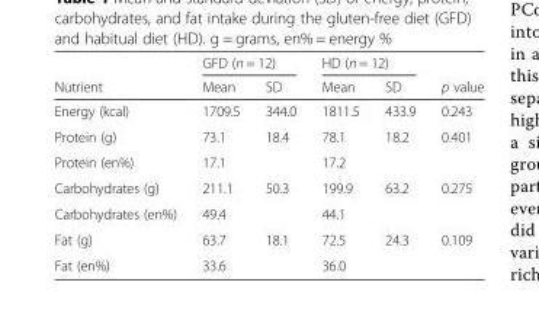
<table><thead><tr><td rowspan="2">Nutrient</td><td colspan="2">GFD (n = 12)</td><td colspan="2">HD (n = 12)</td><td rowspan="2">p value</td></tr><tr><td>Mean</td><td>SD</td><td>Mean</td><td>SD</td></tr></thead><tbody><tr><td>Energy (kcal)</td><td>1709.5</td><td>344.0</td><td>1811.5</td><td>433.9</td><td>0.243</td></tr><tr><td>Protein (g)</td><td>73.1</td><td>18.4</td><td>78.1</td><td>18.2</td><td>0.401</td></tr><tr><td>Protein (en%)</td><td>17.1</td><td></td><td>17.2</td><td></td><td></td></tr><tr><td>Carbohydrates (g)</td><td>211.1</td><td>50.3</td><td>199.9</td><td>63.2</td><td>0.275</td></tr><tr><td>Carbohydrates (en%)</td><td>49.4</td><td></td><td>44.1</td><td></td><td></td></tr><tr><td>Fat (g)</td><td>63.7</td><td>18.1</td><td>72.5</td><td>24.3</td><td>0.109</td></tr><tr><td>Fat (en%)</td><td>33.6</td><td></td><td>36.0</td><td></td><td></td></tr></tbody></table>